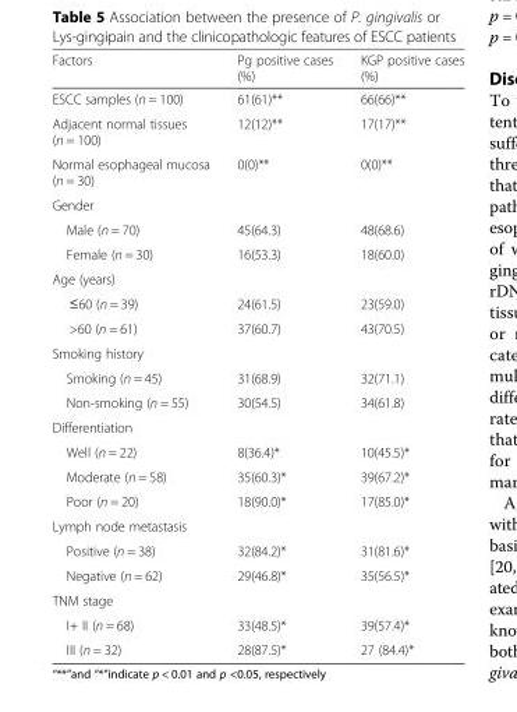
<table><thead><tr><td>Factors</td><td>Pg positive cases (%)</td><td>KGP positive cases (%)</td></tr></thead><tbody><tr><td>ESCC samples (n = 100)</td><td>61(61)**</td><td>66(66)**</td></tr><tr><td>Adjacent normal tissues (n = 100)</td><td>12(12)**</td><td>17(17)**</td></tr><tr><td>Normal esophageal mucosa (n = 30)</td><td>0(0)**</td><td>0(0)**</td></tr><tr><td colspan="3">Gender</td></tr><tr><td>Male (n = 70)</td><td>45(64.3)</td><td>48(68.6)</td></tr><tr><td>Female (n = 30)</td><td>16(53.3)</td><td>18(60.0)</td></tr><tr><td colspan="3">Age (years)</td></tr><tr><td>≤60 (n = 39)</td><td>24(61.5)</td><td>23(59.0)</td></tr><tr><td>&gt;60 (n = 61)</td><td>37(60.7)</td><td>43(70.5)</td></tr><tr><td colspan="3">Smoking history</td></tr><tr><td>Smoking (n = 45)</td><td>31(68.9)</td><td>32(71.1)</td></tr><tr><td>Non-smoking (n = 55)</td><td>30(54.5)</td><td>34(61.8)</td></tr><tr><td colspan="3">Differentiation</td></tr><tr><td>Well (n = 22)</td><td>8(36.4)*</td><td>10(45.5)*</td></tr><tr><td>Moderate (n = 58)</td><td>35(60.3)*</td><td>39(67.2)*</td></tr><tr><td>Poor (n = 20)</td><td>18(90.0)*</td><td>17(85.0)*</td></tr><tr><td colspan="3">Lymph node metastasis</td></tr><tr><td>Positive (n = 38)</td><td>32(84.2)*</td><td>31(81.6)*</td></tr><tr><td>Negative (n = 62)</td><td>29(46.8)*</td><td>35(56.5)*</td></tr><tr><td colspan="3">TNM stage</td></tr><tr><td>I+ II (n = 68)</td><td>33(48.5)*</td><td>39(57.4)*</td></tr><tr><td>III (n = 32)</td><td>28(87.5)*</td><td>27 (84.4)*</td></tr></tbody></table>